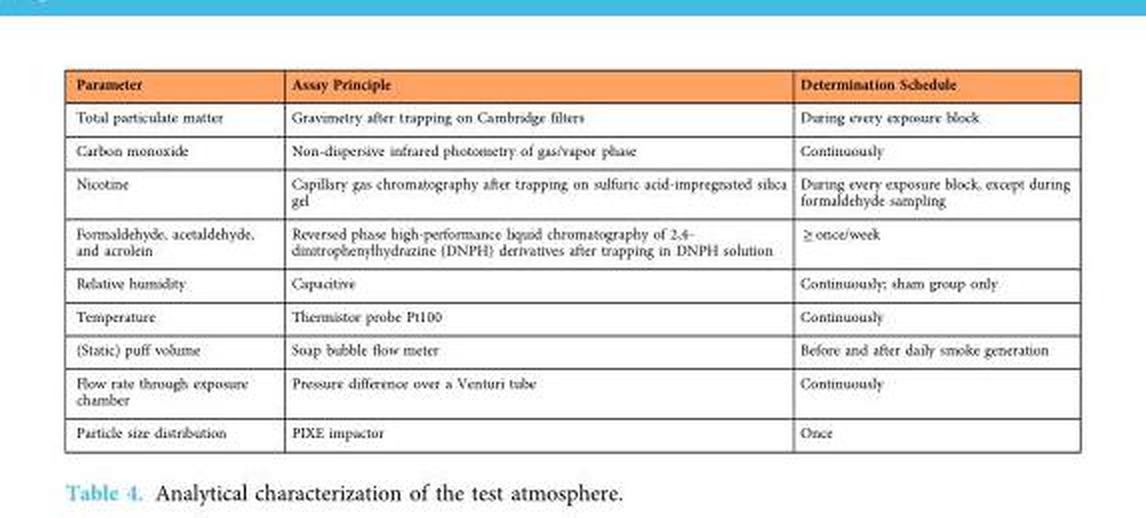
<table><thead><tr><td>Parameter</td><td>Assay Principle</td><td>Determination Schedule</td></tr></thead><tbody><tr><td>Total particulate matter</td><td>Gravimetry after trapping on Cambridge filters</td><td>During every exposure block</td></tr><tr><td>Carbon monoxide</td><td>Non-dispersive infrared photometry of gas/vapor phase</td><td>Continuously</td></tr><tr><td>Nicotine</td><td>Capillary gas chromatography after trapping on sulfuric acid-impregnated silica gel</td><td>During every exposure block, except during formaldehyde sampling</td></tr><tr><td>Formaldehyde, acetaldehyde, and acrolein</td><td>Reversed phase high-performance liquid chromatography of 2,4- dinitrophenylhydrazine (DNPH) derivatives after trapping in DNPH solution</td><td>≥ once/week</td></tr><tr><td>Relative humidity</td><td>Capacitive</td><td>Continuously; sham group only</td></tr><tr><td>Temperature</td><td>Thermistor probe Pt100</td><td>Continuously</td></tr><tr><td>(Static) puff volume</td><td>Soap bubble flow meter</td><td>Before and after daily smoke generation</td></tr><tr><td>Flow rate through exposure chamber</td><td>Pressure difference over a Venturi tube</td><td>Continuously</td></tr><tr><td>Particle size distribution</td><td>PIXE impactor</td><td>Once</td></tr></tbody></table>